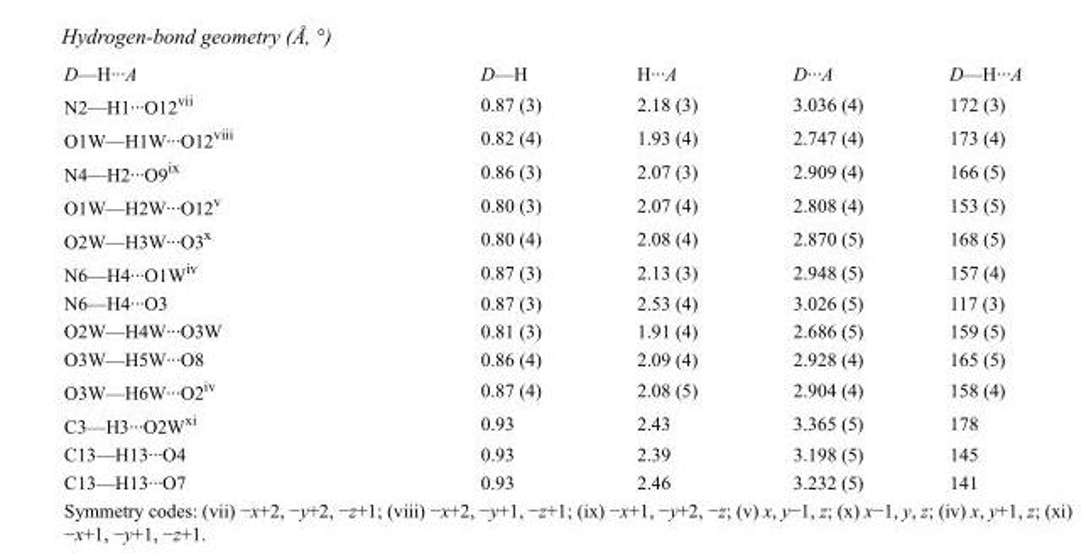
<table><tbody><tr><td>D—H···A</td><td>D—H</td><td>H···A</td><td>D···A</td><td>D—H···A</td></tr><tr><td>N2—H1···O12<sup>vii</sup></td><td>0.87 (3)</td><td>2.18 (3)</td><td>3.036 (4)</td><td>172 (3)</td></tr><tr><td>O1W—H1W···O12<sup>viii</sup></td><td>0.82 (4)</td><td>1.93 (4)</td><td>2.747 (4)</td><td>173 (4)</td></tr><tr><td>N4—H2···O9<sup>ix</sup></td><td>0.86 (3)</td><td>2.07 (3)</td><td>2.909 (4)</td><td>166 (5)</td></tr><tr><td>O1W—H2W···O12<sup>v</sup></td><td>0.80 (3)</td><td>2.07 (4)</td><td>2.808 (4)</td><td>153 (5)</td></tr><tr><td>O2W—H3W···O3<sup>x</sup></td><td>0.80 (4)</td><td>2.08 (4)</td><td>2.870 (5)</td><td>168 (5)</td></tr><tr><td>N6—H4···O1W<sup>iv</sup></td><td>0.87 (3)</td><td>2.13 (3)</td><td>2.948 (5)</td><td>157 (4)</td></tr><tr><td>N6—H4···O3</td><td>0.87 (3)</td><td>2.53 (4)</td><td>3.026 (5)</td><td>117 (3)</td></tr><tr><td>O2W—H4W···O3W</td><td>0.81 (3)</td><td>1.91 (4)</td><td>2.686 (5)</td><td>159 (5)</td></tr><tr><td>O3W—H5W···O8</td><td>0.86 (4)</td><td>2.09 (4)</td><td>2.928 (4)</td><td>165 (5)</td></tr><tr><td>O3W—H6W···O2<sup>iv</sup></td><td>0.87 (4)</td><td>2.08 (5)</td><td>2.904 (4)</td><td>158 (4)</td></tr><tr><td>C3—H3···O2W<sup>xi</sup></td><td>0.93</td><td>2.43</td><td>3.365 (5)</td><td>178</td></tr><tr><td>C13—H13···O4</td><td>0.93</td><td>2.39</td><td>3.198 (5)</td><td>145</td></tr><tr><td>C13—H13···O7</td><td>0.93</td><td>2.46</td><td>3.232 (5)</td><td>141</td></tr></tbody></table>